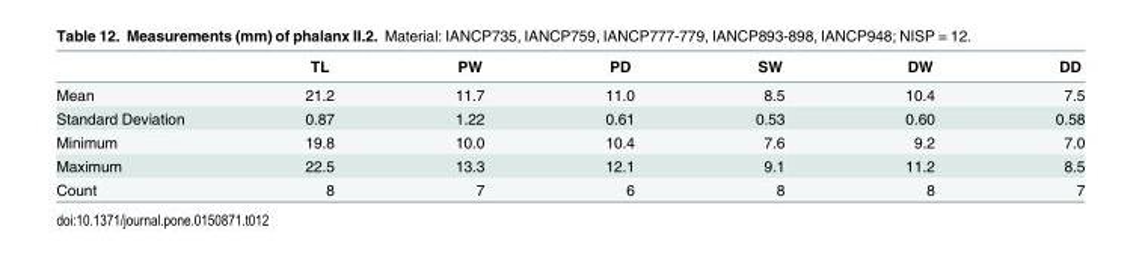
<table><thead><tr><td></td><td>TL</td><td>PW</td><td>PD</td><td>SW</td><td>DW</td><td>DD</td></tr></thead><tbody><tr><td>Mean</td><td>21.2</td><td>11.7</td><td>11.0</td><td>8.5</td><td>10.4</td><td>7.5</td></tr><tr><td>Standard Deviation</td><td>0.87</td><td>1.22</td><td>0.61</td><td>0.53</td><td>0.60</td><td>0.58</td></tr><tr><td>Minimum</td><td>19.8</td><td>10.0</td><td>10.4</td><td>7.6</td><td>9.2</td><td>7.0</td></tr><tr><td>Maximum</td><td>22.5</td><td>13.3</td><td>12.1</td><td>9.1</td><td>11.2</td><td>8.5</td></tr><tr><td>Count</td><td>8</td><td>7</td><td>6</td><td>8</td><td>8</td><td>7</td></tr></tbody></table>